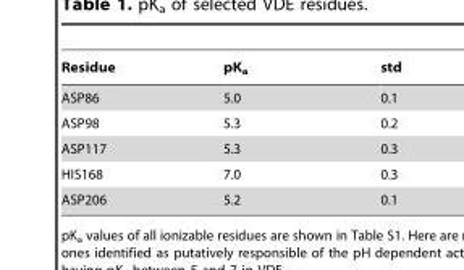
<table><thead><tr><td>Residue</td><td>pK<sub>a</sub></td><td>std</td></tr></thead><tbody><tr><td>ASP86</td><td>5.0</td><td>0.1</td></tr><tr><td>ASP98</td><td>5.3</td><td>0.2</td></tr><tr><td>ASP117</td><td>5.3</td><td>0.3</td></tr><tr><td>HIS168</td><td>7.0</td><td>0.3</td></tr><tr><td>ASP206</td><td>5.2</td><td>0.1</td></tr></tbody></table>